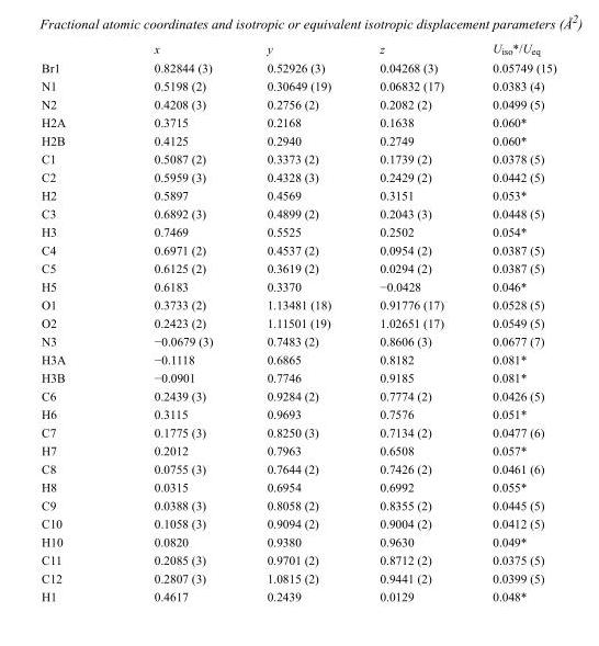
<table><thead><tr><td></td><td>x</td><td>y</td><td>z</td><td>U<sub>iso</sub>*/U<sub>eq</sub></td></tr></thead><tbody><tr><td>Br1</td><td>0.82844 (3)</td><td>0.52926 (3)</td><td>0.04268 (3)</td><td>0.05749 (15)</td></tr><tr><td>N1</td><td>0.5198 (2)</td><td>0.30649 (19)</td><td>0.06832 (17)</td><td>0.0383 (4)</td></tr><tr><td>N2</td><td>0.4208 (3)</td><td>0.2756 (2)</td><td>0.2082 (2)</td><td>0.0499 (5)</td></tr><tr><td>H2A</td><td>0.3715</td><td>0.2168</td><td>0.1638</td><td>0.060*</td></tr><tr><td>H2B</td><td>0.4125</td><td>0.2940</td><td>0.2749</td><td>0.060*</td></tr><tr><td>C1</td><td>0.5087 (2)</td><td>0.3373 (2)</td><td>0.1739 (2)</td><td>0.0378 (5)</td></tr><tr><td>C2</td><td>0.5959 (3)</td><td>0.4328 (3)</td><td>0.2429 (2)</td><td>0.0442 (5)</td></tr><tr><td>H2</td><td>0.5897</td><td>0.4569</td><td>0.3151</td><td>0.053*</td></tr><tr><td>C3</td><td>0.6892 (3)</td><td>0.4899 (2)</td><td>0.2043 (3)</td><td>0.0448 (5)</td></tr><tr><td>H3</td><td>0.7469</td><td>0.5525</td><td>0.2502</td><td>0.054*</td></tr><tr><td>C4</td><td>0.6971 (2)</td><td>0.4537 (2)</td><td>0.0954 (2)</td><td>0.0387 (5)</td></tr><tr><td>C5</td><td>0.6125 (2)</td><td>0.3619 (2)</td><td>0.0294 (2)</td><td>0.0387 (5)</td></tr><tr><td>H5</td><td>0.6183</td><td>0.3370</td><td>−0.0428</td><td>0.046*</td></tr><tr><td>O1</td><td>0.3733 (2)</td><td>1.13481 (18)</td><td>0.91776 (17)</td><td>0.0528 (5)</td></tr><tr><td>O2</td><td>0.2423 (2)</td><td>1.11501 (19)</td><td>1.02651 (17)</td><td>0.0549 (5)</td></tr><tr><td>N3</td><td>−0.0679 (3)</td><td>0.7483 (2)</td><td>0.8606 (3)</td><td>0.0677 (7)</td></tr><tr><td>H3A</td><td>−0.1118</td><td>0.6865</td><td>0.8182</td><td>0.081*</td></tr><tr><td>H3B</td><td>−0.0901</td><td>0.7746</td><td>0.9185</td><td>0.081*</td></tr><tr><td>C6</td><td>0.2439 (3)</td><td>0.9284 (2)</td><td>0.7774 (2)</td><td>0.0426 (5)</td></tr><tr><td>H6</td><td>0.3115</td><td>0.9693</td><td>0.7576</td><td>0.051*</td></tr><tr><td>C7</td><td>0.1775 (3)</td><td>0.8250 (3)</td><td>0.7134 (2)</td><td>0.0477 (6)</td></tr><tr><td>H7</td><td>0.2012</td><td>0.7963</td><td>0.6508</td><td>0.057*</td></tr><tr><td>C8</td><td>0.0755 (3)</td><td>0.7644 (2)</td><td>0.7426 (2)</td><td>0.0461 (6)</td></tr><tr><td>H8</td><td>0.0315</td><td>0.6954</td><td>0.6992</td><td>0.055*</td></tr><tr><td>C9</td><td>0.0388 (3)</td><td>0.8058 (2)</td><td>0.8355 (2)</td><td>0.0445 (5)</td></tr><tr><td>C10</td><td>0.1058 (3)</td><td>0.9094 (2)</td><td>0.9004 (2)</td><td>0.0412 (5)</td></tr><tr><td>H10</td><td>0.0820</td><td>0.9380</td><td>0.9630</td><td>0.049*</td></tr><tr><td>C11</td><td>0.2085 (3)</td><td>0.9701 (2)</td><td>0.8712 (2)</td><td>0.0375 (5)</td></tr><tr><td>C12</td><td>0.2807 (3)</td><td>1.0815 (2)</td><td>0.9441 (2)</td><td>0.0399 (5)</td></tr><tr><td>H1</td><td>0.4617</td><td>0.2439</td><td>0.0129</td><td>0.048*</td></tr></tbody></table>